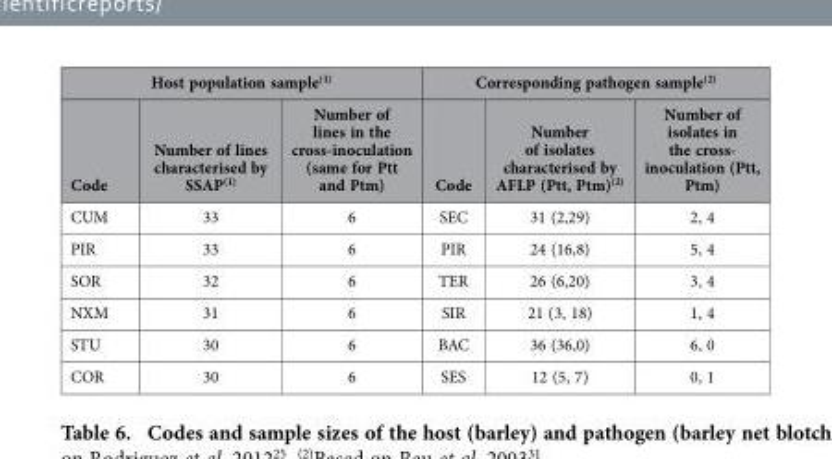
<table><thead><tr><td colspan="3">Host population sample(1)</td><td colspan="3">Corresponding pathogen sample(2)</td></tr><tr><td>Code</td><td>Number of lines characterised by SSAP(1)</td><td>Number of lines in the cross-inoculation (same for Ptt and Ptm)</td><td>Code</td><td>Number of isolates characterised by AFLP (Ptt, Ptm)(2)</td><td>Number of isolates in the cross- inoculation (Ptt, Ptm)</td></tr></thead><tbody><tr><td>CUM</td><td>33</td><td>6</td><td>SEC</td><td>31 (2,29)</td><td>2, 4</td></tr><tr><td>PIR</td><td>33</td><td>6</td><td>PIR</td><td>24 (16,8)</td><td>5, 4</td></tr><tr><td>SOR</td><td>32</td><td>6</td><td>TER</td><td>26 (6,20)</td><td>3, 4</td></tr><tr><td>NXM</td><td>31</td><td>6</td><td>SIR</td><td>21 (3, 18)</td><td>1, 4</td></tr><tr><td>STU</td><td>30</td><td>6</td><td>BAC</td><td>36 (36,0)</td><td>6, 0</td></tr><tr><td>COR</td><td>30</td><td>6</td><td>SES</td><td>12 (5, 7)</td><td>0, 1</td></tr></tbody></table>